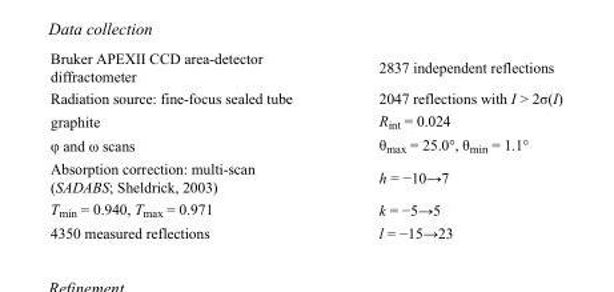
<table><tbody><tr><td>Bruker APEXII CCD area-detector diffractometer</td><td>2837 independent reflections</td></tr><tr><td>Radiation source: fine-focus sealed tube</td><td>2047 reflections with I &gt; 2σ(I)</td></tr><tr><td>graphite</td><td>R<sub>int</sub> = 0.024</td></tr><tr><td>φ and ω scans</td><td>θ<sub>max</sub> = 25.0°, θ<sub>min</sub> = 1.1°</td></tr><tr><td>Absorption correction: multi-scan (SADABS; Sheldrick, 2003)</td><td>h = −10→7</td></tr><tr><td>T<sub>min</sub> = 0.940, T<sub>max</sub> = 0.971</td><td>k = −5→5</td></tr><tr><td>4350 measured reflections</td><td>l = −15→23</td></tr></tbody></table>